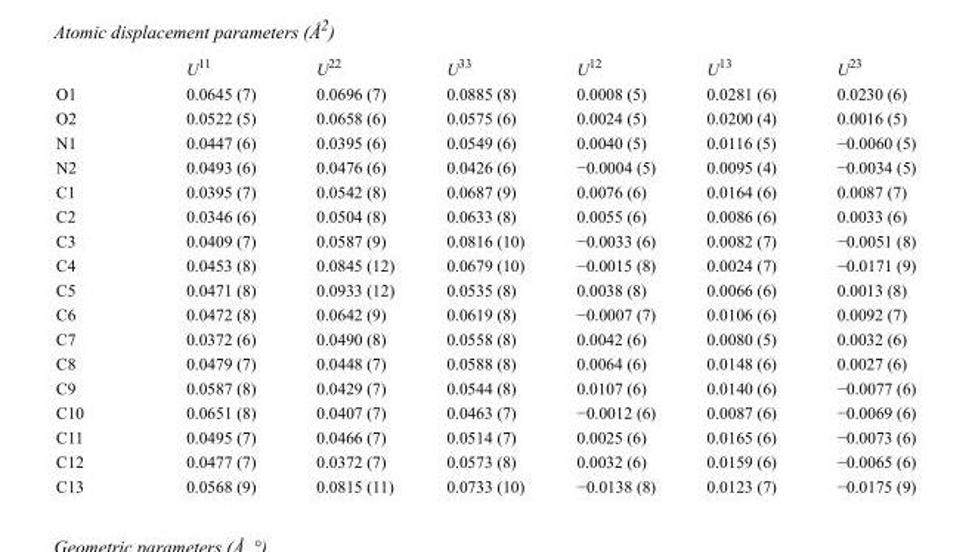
<table><thead><tr><td></td><td>U<sup>11</sup></td><td>U<sup>22</sup></td><td>U<sup>33</sup></td><td>U<sup>12</sup></td><td>U<sup>13</sup></td><td>U<sup>23</sup></td></tr></thead><tbody><tr><td>O1</td><td>0.0645 (7)</td><td>0.0696 (7)</td><td>0.0885 (8)</td><td>0.0008 (5)</td><td>0.0281 (6)</td><td>0.0230 (6)</td></tr><tr><td>O2</td><td>0.0522 (5)</td><td>0.0658 (6)</td><td>0.0575 (6)</td><td>0.0024 (5)</td><td>0.0200 (4)</td><td>0.0016 (5)</td></tr><tr><td>N1</td><td>0.0447 (6)</td><td>0.0395 (6)</td><td>0.0549 (6)</td><td>0.0040 (5)</td><td>0.0116 (5)</td><td>−0.0060 (5)</td></tr><tr><td>N2</td><td>0.0493 (6)</td><td>0.0476 (6)</td><td>0.0426 (6)</td><td>−0.0004 (5)</td><td>0.0095 (4)</td><td>−0.0034 (5)</td></tr><tr><td>C1</td><td>0.0395 (7)</td><td>0.0542 (8)</td><td>0.0687 (9)</td><td>0.0076 (6)</td><td>0.0164 (6)</td><td>0.0087 (7)</td></tr><tr><td>C2</td><td>0.0346 (6)</td><td>0.0504 (8)</td><td>0.0633 (8)</td><td>0.0055 (6)</td><td>0.0086 (6)</td><td>0.0033 (6)</td></tr><tr><td>C3</td><td>0.0409 (7)</td><td>0.0587 (9)</td><td>0.0816 (10)</td><td>−0.0033 (6)</td><td>0.0082 (7)</td><td>−0.0051 (8)</td></tr><tr><td>C4</td><td>0.0453 (8)</td><td>0.0845 (12)</td><td>0.0679 (10)</td><td>−0.0015 (8)</td><td>0.0024 (7)</td><td>−0.0171 (9)</td></tr><tr><td>C5</td><td>0.0471 (8)</td><td>0.0933 (12)</td><td>0.0535 (8)</td><td>0.0038 (8)</td><td>0.0066 (6)</td><td>0.0013 (8)</td></tr><tr><td>C6</td><td>0.0472 (8)</td><td>0.0642 (9)</td><td>0.0619 (8)</td><td>−0.0007 (7)</td><td>0.0106 (6)</td><td>0.0092 (7)</td></tr><tr><td>C7</td><td>0.0372 (6)</td><td>0.0490 (8)</td><td>0.0558 (8)</td><td>0.0042 (6)</td><td>0.0080 (5)</td><td>0.0032 (6)</td></tr><tr><td>C8</td><td>0.0479 (7)</td><td>0.0448 (7)</td><td>0.0588 (8)</td><td>0.0064 (6)</td><td>0.0148 (6)</td><td>0.0027 (6)</td></tr><tr><td>C9</td><td>0.0587 (8)</td><td>0.0429 (7)</td><td>0.0544 (8)</td><td>0.0107 (6)</td><td>0.0140 (6)</td><td>−0.0077 (6)</td></tr><tr><td>C10</td><td>0.0651 (8)</td><td>0.0407 (7)</td><td>0.0463 (7)</td><td>−0.0012 (6)</td><td>0.0087 (6)</td><td>−0.0069 (6)</td></tr><tr><td>C11</td><td>0.0495 (7)</td><td>0.0466 (7)</td><td>0.0514 (7)</td><td>0.0025 (6)</td><td>0.0165 (6)</td><td>−0.0073 (6)</td></tr><tr><td>C12</td><td>0.0477 (7)</td><td>0.0372 (7)</td><td>0.0573 (8)</td><td>0.0032 (6)</td><td>0.0159 (6)</td><td>−0.0065 (6)</td></tr><tr><td>C13</td><td>0.0568 (9)</td><td>0.0815 (11)</td><td>0.0733 (10)</td><td>−0.0138 (8)</td><td>0.0123 (7)</td><td>−0.0175 (9)</td></tr></tbody></table>